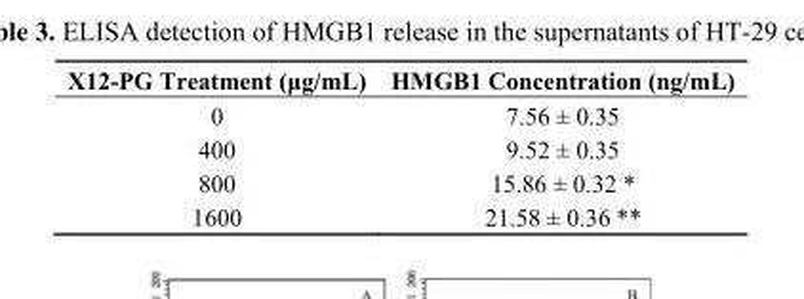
<table><thead><tr><td>X12-PG Treatment (μg/mL)</td><td>HMGB1 Concentration (ng/mL)</td></tr></thead><tbody><tr><td>0</td><td>7.56 ± 0.35</td></tr><tr><td>400</td><td>9.52 ± 0.35</td></tr><tr><td>800</td><td>15.86 ± 0.32 *</td></tr><tr><td>1600</td><td>21.58 ± 0.36 **</td></tr></tbody></table>